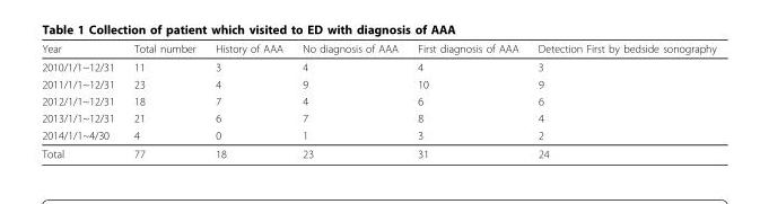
<table><thead><tr><td>Year</td><td>Total number</td><td>History of AAA</td><td>No diagnosis of AAA</td><td>First diagnosis of AAA</td><td>Detection First by bedside sonography</td></tr></thead><tbody><tr><td>2010/1/1~12/31</td><td>11</td><td>3</td><td>4</td><td>4</td><td>3</td></tr><tr><td>2011/1/1~12/31</td><td>23</td><td>4</td><td>9</td><td>10</td><td>9</td></tr><tr><td>2012/1/1~12/31</td><td>18</td><td>7</td><td>4</td><td>6</td><td>6</td></tr><tr><td>2013/1/1~12/31</td><td>21</td><td>6</td><td>7</td><td>8</td><td>4</td></tr><tr><td>2014/1/1~4/30</td><td>4</td><td>0</td><td>1</td><td>3</td><td>2</td></tr><tr><td>Total</td><td>77</td><td>18</td><td>23</td><td>31</td><td>24</td></tr></tbody></table>